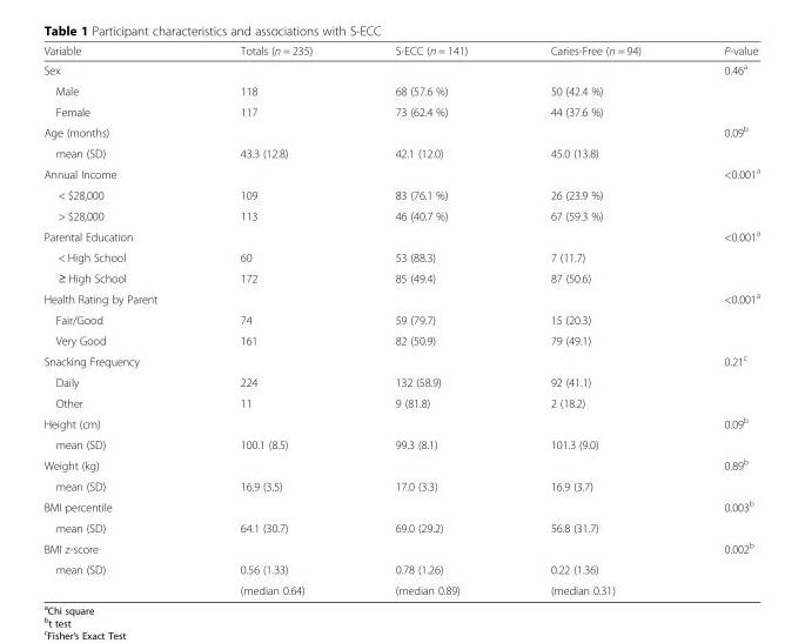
<table><thead><tr><td>Variable</td><td>Totals (n = 235)</td><td>S-ECC (n = 141)</td><td>Caries-Free (n = 94)</td><td>P-value</td></tr></thead><tbody><tr><td colspan="4">Sex</td><td rowspan="3">0.46<sup>a</sup></td></tr><tr><td>Male</td><td>118</td><td>68 (57.6 %)</td><td>50 (42.4 %)</td></tr><tr><td>Female</td><td>117</td><td>73 (62.4 %)</td><td>44 (37.6 %)</td></tr><tr><td colspan="4">Age (months)</td><td rowspan="2">0.09<sup>b</sup></td></tr><tr><td>mean (SD)</td><td>43.3 (12.8)</td><td>42.1 (12.0)</td><td>45.0 (13.8)</td></tr><tr><td colspan="4">Annual Income</td><td rowspan="3">&lt;0.001<sup>a</sup></td></tr><tr><td>&lt; $28,000</td><td>109</td><td>83 (76.1 %)</td><td>26 (23.9 %)</td></tr><tr><td>&gt; $28,000</td><td>113</td><td>46 (40.7 %)</td><td>67 (59.3 %)</td></tr><tr><td colspan="4">Parental Education</td><td rowspan="3">&lt;0.001<sup>a</sup></td></tr><tr><td>&lt; High School</td><td>60</td><td>53 (88.3)</td><td>7 (11.7)</td></tr><tr><td>≥ High School</td><td>172</td><td>85 (49.4)</td><td>87 (50.6)</td></tr><tr><td colspan="4">Health Rating by Parent</td><td rowspan="3">&lt;0.001<sup>a</sup></td></tr><tr><td>Fair/Good</td><td>74</td><td>59 (79.7)</td><td>15 (20.3)</td></tr><tr><td>Very Good</td><td>161</td><td>82 (50.9)</td><td>79 (49.1)</td></tr><tr><td colspan="4">Snacking Frequency</td><td rowspan="3">0.21<sup>c</sup></td></tr><tr><td>Daily</td><td>224</td><td>132 (58.9)</td><td>92 (41.1)</td></tr><tr><td>Other</td><td>11</td><td>9 (81.8)</td><td>2 (18.2)</td></tr><tr><td colspan="4">Height (cm)</td><td rowspan="2">0.09<sup>b</sup></td></tr><tr><td>mean (SD)</td><td>100.1 (8.5)</td><td>99.3 (8.1)</td><td>101.3 (9.0)</td></tr><tr><td colspan="4">Weight (kg)</td><td rowspan="2">0.89<sup>b</sup></td></tr><tr><td>mean (SD)</td><td>16.9 (3.5)</td><td>17.0 (3.3)</td><td>16.9 (3.7)</td></tr><tr><td colspan="4">BMI percentile</td><td rowspan="2">0.003<sup>b</sup></td></tr><tr><td>mean (SD)</td><td>64.1 (30.7)</td><td>69.0 (29.2)</td><td>56.8 (31.7)</td></tr><tr><td colspan="4">BMI z-score</td><td rowspan="3">0.002<sup>b</sup></td></tr><tr><td rowspan="2">mean (SD)</td><td>0.56 (1.33)</td><td>0.78 (1.26)</td><td>0.22 (1.36)</td></tr><tr><td>(median 0.64)</td><td>(median 0.89)</td><td>(median 0.31)</td></tr></tbody></table>